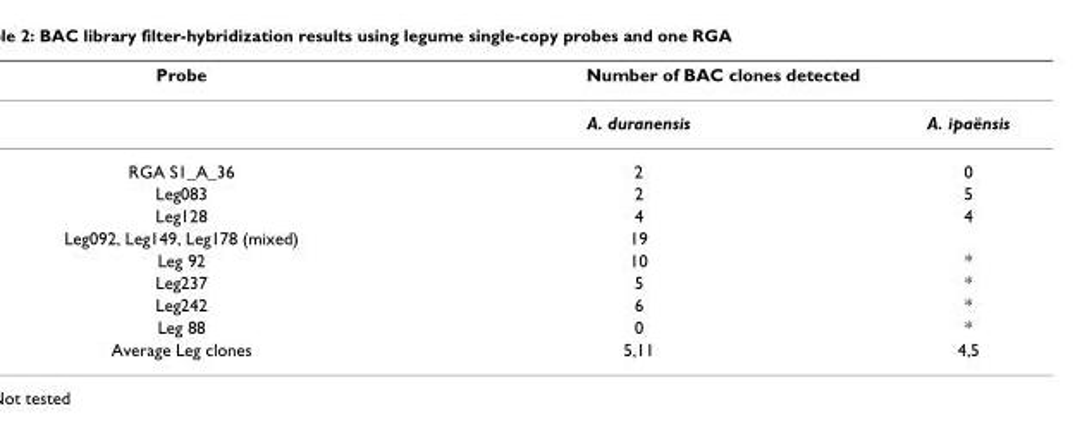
<table><thead><tr><td rowspan="2">Probe</td><td colspan="2">Number of BAC clones detected</td></tr><tr><td>A. duranensis</td><td>A. ipaënsis</td></tr></thead><tbody><tr><td>RGA S1_A_36</td><td>2</td><td>0</td></tr><tr><td>Leg083</td><td>2</td><td>5</td></tr><tr><td>Leg128</td><td>4</td><td>4</td></tr><tr><td>Leg092, Leg149, Leg178 (mixed)</td><td>19</td><td></td></tr><tr><td>Leg 92</td><td>10</td><td>*</td></tr><tr><td>Leg237</td><td>5</td><td>*</td></tr><tr><td>Leg242</td><td>6</td><td>*</td></tr><tr><td>Leg 88</td><td>0</td><td>*</td></tr><tr><td>Average Leg clones</td><td>5,11</td><td>4,5</td></tr></tbody></table>